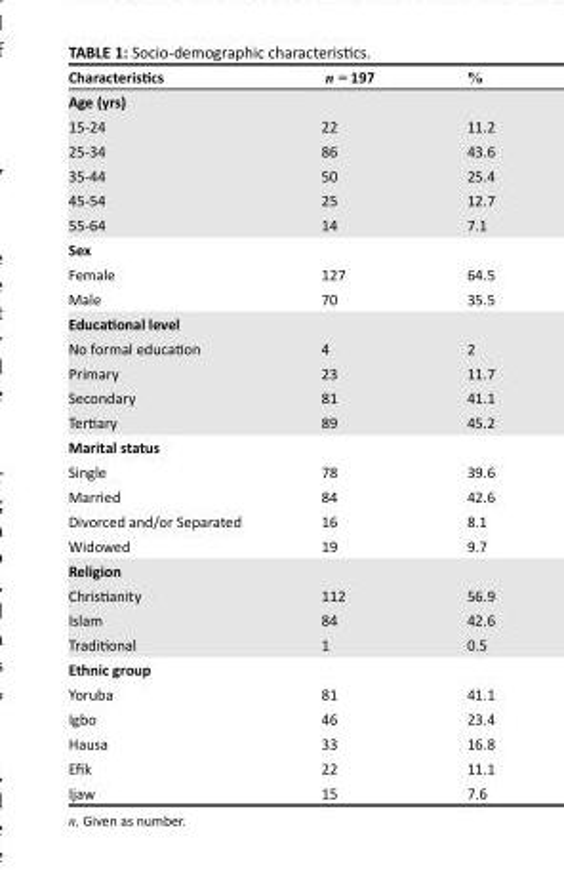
<table><thead><tr><td>Characteristics</td><td>n = 197</td><td>%</td></tr></thead><tbody><tr><td colspan="3">Age (yrs)</td></tr><tr><td>15-24</td><td>22</td><td>11.2</td></tr><tr><td>25-34</td><td>86</td><td>43.6</td></tr><tr><td>35-44</td><td>50</td><td>25.4</td></tr><tr><td>45-54</td><td>25</td><td>12.7</td></tr><tr><td>55-64</td><td>14</td><td>7.1</td></tr><tr><td colspan="3">Sex</td></tr><tr><td>Female</td><td>127</td><td>64.5</td></tr><tr><td>Male</td><td>70</td><td>35.5</td></tr><tr><td colspan="3">Educational level</td></tr><tr><td>No formal education</td><td>4</td><td>2</td></tr><tr><td>Primary</td><td>23</td><td>11.7</td></tr><tr><td>Secondary</td><td>81</td><td>41.1</td></tr><tr><td>Tertiary</td><td>89</td><td>45.2</td></tr><tr><td colspan="3">Marital status</td></tr><tr><td>Single</td><td>78</td><td>39.6</td></tr><tr><td>Married</td><td>84</td><td>42.6</td></tr><tr><td>Divorced and/or Separated</td><td>16</td><td>8.1</td></tr><tr><td>Widowed</td><td>19</td><td>9.7</td></tr><tr><td colspan="3">Religion</td></tr><tr><td>Christianity</td><td>112</td><td>56.9</td></tr><tr><td>Islam</td><td>84</td><td>42.6</td></tr><tr><td>Traditional</td><td>1</td><td>0.5</td></tr><tr><td colspan="3">Ethnic group</td></tr><tr><td>Yoruba</td><td>81</td><td>41.1</td></tr><tr><td>Igbo</td><td>46</td><td>23.4</td></tr><tr><td>Hausa</td><td>33</td><td>16.8</td></tr><tr><td>Efik</td><td>22</td><td>11.1</td></tr><tr><td>Ijaw</td><td>15</td><td>7.6</td></tr></tbody></table>